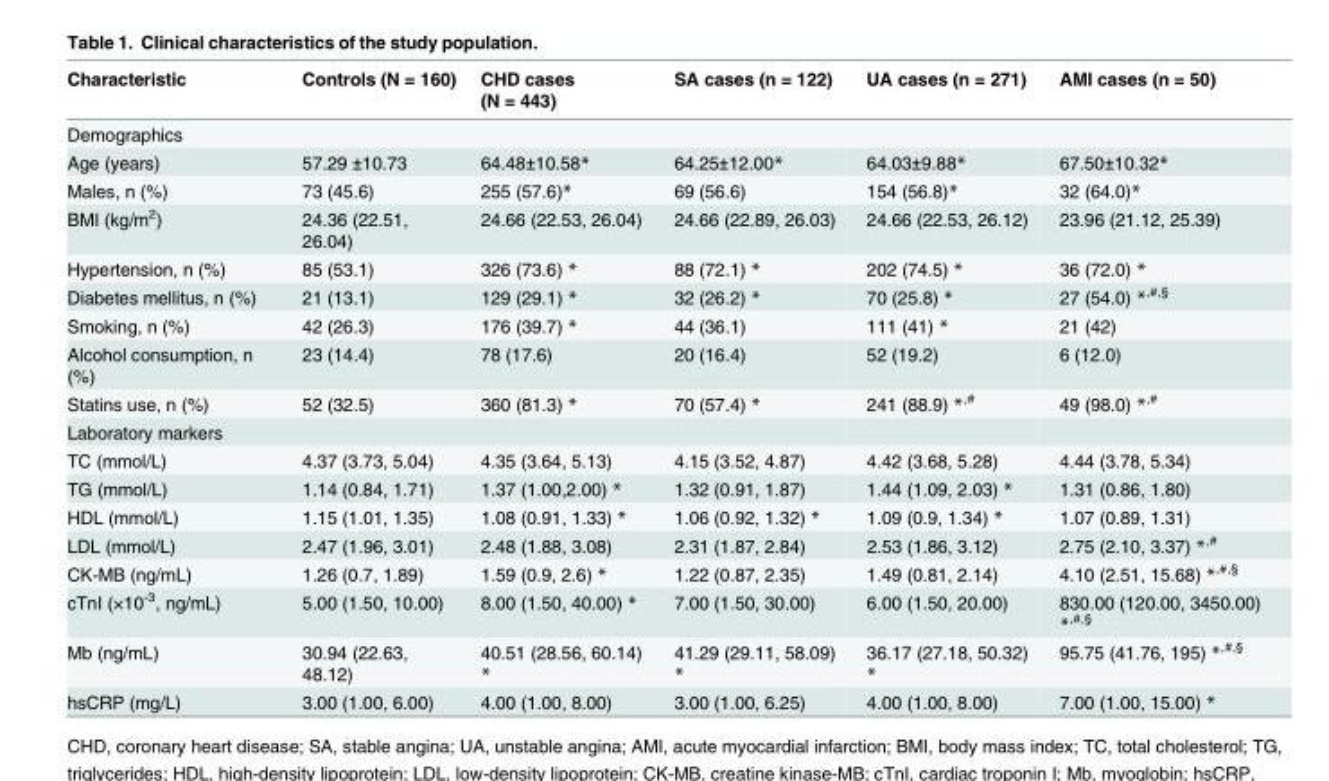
<table><thead><tr><td>Characteristic</td><td>Controls (N = 160)</td><td>CHD cases (N = 443)</td><td>SA cases (n = 122)</td><td>UA cases (n = 271)</td><td>AMI cases (n = 50)</td></tr></thead><tbody><tr><td colspan="6">Demographics</td></tr><tr><td>Age (years)</td><td>57.29 ±10.73</td><td>64.48±10.58*</td><td>64.25±12.00*</td><td>64.03±9.88*</td><td>67.50±10.32*</td></tr><tr><td>Males, n (%)</td><td>73 (45.6)</td><td>255 (57.6)*</td><td>69 (56.6)</td><td>154 (56.8)*</td><td>32 (64.0)*</td></tr><tr><td>BMI (kg/m<sup>2</sup>)</td><td>24.36 (22.51, 26.04)</td><td>24.66 (22.53, 26.04)</td><td>24.66 (22.89, 26.03)</td><td>24.66 (22.53, 26.12)</td><td>23.96 (21.12, 25.39)</td></tr><tr><td>Hypertension, n (%)</td><td>85 (53.1)</td><td>326 (73.6) *</td><td>88 (72.1) *</td><td>202 (74.5) *</td><td>36 (72.0) *</td></tr><tr><td>Diabetes mellitus, n (%)</td><td>21 (13.1)</td><td>129 (29.1) *</td><td>32 (26.2) *</td><td>70 (25.8) *</td><td>27 (54.0) *<sup>,#,§</sup></td></tr><tr><td>Smoking, n (%)</td><td>42 (26.3)</td><td>176 (39.7) *</td><td>44 (36.1)</td><td>111 (41) *</td><td>21 (42)</td></tr><tr><td>Alcohol consumption, n (%)</td><td>23 (14.4)</td><td>78 (17.6)</td><td>20 (16.4)</td><td>52 (19.2)</td><td>6 (12.0)</td></tr><tr><td>Statins use, n (%)</td><td>52 (32.5)</td><td>360 (81.3) *</td><td>70 (57.4) *</td><td>241 (88.9) *<sup>,#</sup></td><td>49 (98.0) *<sup>,#</sup></td></tr><tr><td colspan="6">Laboratory markers</td></tr><tr><td>TC (mmol/L)</td><td>4.37 (3.73, 5.04)</td><td>4.35 (3.64, 5.13)</td><td>4.15 (3.52, 4.87)</td><td>4.42 (3.68, 5.28)</td><td>4.44 (3.78, 5.34)</td></tr><tr><td>TG (mmol/L)</td><td>1.14 (0.84, 1.71)</td><td>1.37 (1.00,2.00) *</td><td>1.32 (0.91, 1.87)</td><td>1.44 (1.09, 2.03) *</td><td>1.31 (0.86, 1.80)</td></tr><tr><td>HDL (mmol/L)</td><td>1.15 (1.01, 1.35)</td><td>1.08 (0.91, 1.33) *</td><td>1.06 (0.92, 1.32) *</td><td>1.09 (0.9, 1.34) *</td><td>1.07 (0.89, 1.31)</td></tr><tr><td>LDL (mmol/L)</td><td>2.47 (1.96, 3.01)</td><td>2.48 (1.88, 3.08)</td><td>2.31 (1.87, 2.84)</td><td>2.53 (1.86, 3.12)</td><td>2.75 (2.10, 3.37) *<sup>,#</sup></td></tr><tr><td>CK-MB (ng/mL)</td><td>1.26 (0.7, 1.89)</td><td>1.59 (0.9, 2.6) *</td><td>1.22 (0.87, 2.35)</td><td>1.49 (0.81, 2.14)</td><td>4.10 (2.51, 15.68) *<sup>,#,§</sup></td></tr><tr><td>cTnI (×10<sup>-3</sup>, ng/mL)</td><td>5.00 (1.50, 10.00)</td><td>8.00 (1.50, 40.00) *</td><td>7.00 (1.50, 30.00)</td><td>6.00 (1.50, 20.00)</td><td>830.00 (120.00, 3450.00) *<sup>,#,§</sup></td></tr><tr><td>Mb (ng/mL)</td><td>30.94 (22.63, 48.12)</td><td>40.51 (28.56, 60.14) *</td><td>41.29 (29.11, 58.09) *</td><td>36.17 (27.18, 50.32) *</td><td>95.75 (41.76, 195) *<sup>,#,§</sup></td></tr><tr><td>hsCRP (mg/L)</td><td>3.00 (1.00, 6.00)</td><td>4.00 (1.00, 8.00)</td><td>3.00 (1.00, 6.25)</td><td>4.00 (1.00, 8.00)</td><td>7.00 (1.00, 15.00) *</td></tr></tbody></table>